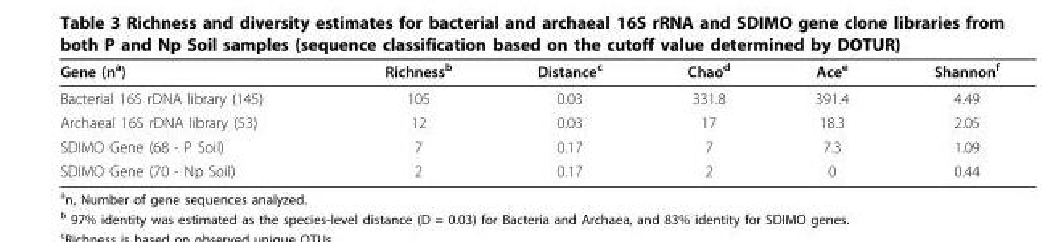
<table><thead><tr><td>Gene (n<sup>a</sup>)</td><td>Richness<sup>b</sup></td><td>Distance<sup>c</sup></td><td>Chao<sup>d</sup></td><td>Ace<sup>e</sup></td><td>Shannon<sup>f</sup></td></tr></thead><tbody><tr><td>Bacterial 16S rDNA library (145)</td><td>105</td><td>0.03</td><td>331.8</td><td>391.4</td><td>4.49</td></tr><tr><td>Archaeal 16S rDNA library (53)</td><td>12</td><td>0.03</td><td>17</td><td>18.3</td><td>2.05</td></tr><tr><td>SDIMO Gene (68 - P Soil)</td><td>7</td><td>0.17</td><td>7</td><td>7.3</td><td>1.09</td></tr><tr><td>SDIMO Gene (70 - Np Soil)</td><td>2</td><td>0.17</td><td>2</td><td>0</td><td>0.44</td></tr></tbody></table>